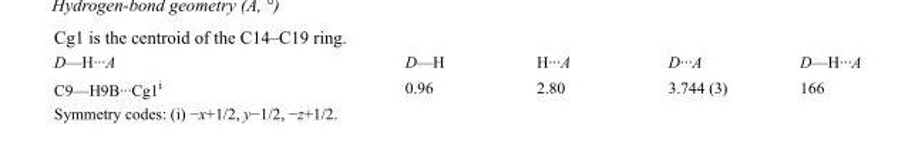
<table><tbody><tr><td>D—H···A</td><td>D—H</td><td>H···A</td><td>D···A</td><td>D—H···A</td></tr><tr><td>C9—H9B···Cg1<sup>i</sup></td><td>0.96</td><td>2.80</td><td>3.744 (3)</td><td>166</td></tr></tbody></table>